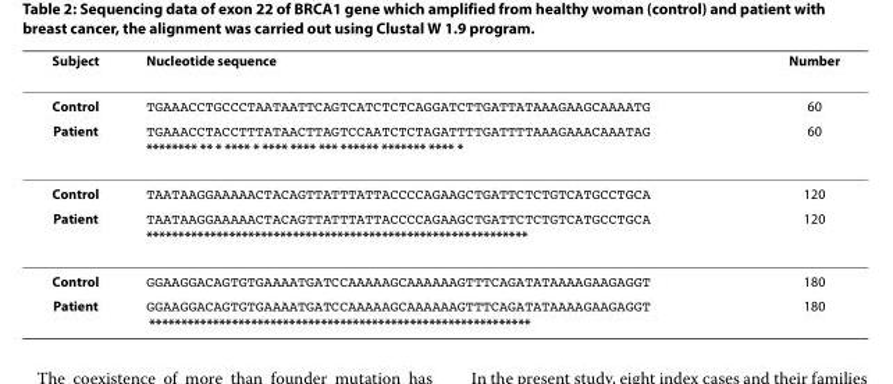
<table><thead><tr><td>Subject</td><td>Nucleotide sequence</td><td>Number</td></tr></thead><tbody><tr><td>Control</td><td>TGAAACCTGCCCTAATAATTCAGTCATCTCTCAGGATCTTGATTATAAAGAAGCAAAATG</td><td>60</td></tr><tr><td>Patient</td><td>TGAAACCTACCTTTATAACTTAGTCCAATCTCTAGATTTTGATTTTAAAGAAACAAATAG ******** ** * **** * **** **** *** ****** ******* **** *</td><td>60</td></tr><tr><td>Control</td><td>TAATAAGGAAAAACTACAGTTATTTATTACCCCAGAAGCTGATTCTCTGTCATGCCTGCA</td><td>120</td></tr><tr><td>Patient</td><td>TAATAAGGAAAAACTACAGTTATTTATTACCCCAGAAGCTGATTCTCTGTCATGCCTGCA ************************************************************</td><td>120</td></tr><tr><td>Control</td><td>GGAAGGACAGTGTGAAAATGATCCAAAAAGCAAAAAAGTTTCAGATATAAAAGAAGAGGT</td><td>180</td></tr><tr><td>Patient</td><td>GGAAGGACAGTGTGAAAATGATCCAAAAAGCAAAAAAGTTTCAGATATAAAAGAAGAGGT ************************************************************</td><td>180</td></tr></tbody></table>